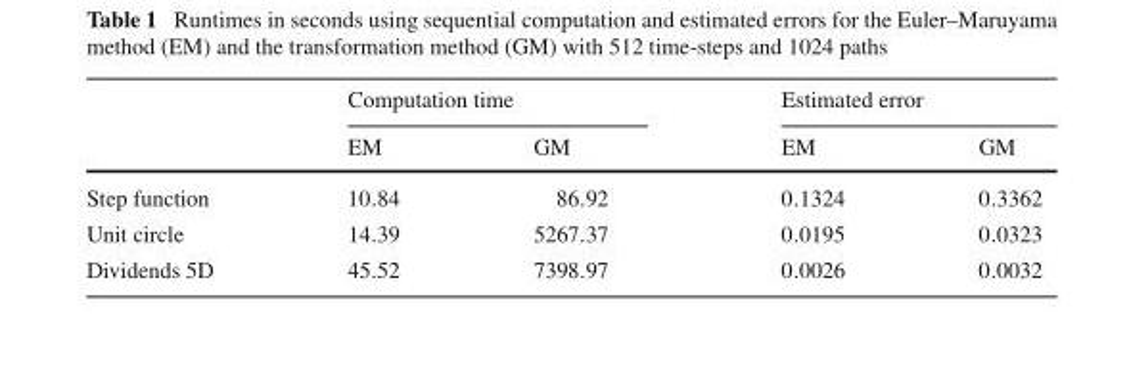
<table><thead><tr><td rowspan="2"></td><td colspan="2">Computation time</td><td colspan="2">Estimated error</td></tr><tr><td>EM</td><td>GM</td><td>EM</td><td>GM</td></tr></thead><tbody><tr><td>Step function</td><td>10.84</td><td>86.92</td><td>0.1324</td><td>0.3362</td></tr><tr><td>Unit circle</td><td>14.39</td><td>5267.37</td><td>0.0195</td><td>0.0323</td></tr><tr><td>Dividends 5D</td><td>45.52</td><td>7398.97</td><td>0.0026</td><td>0.0032</td></tr></tbody></table>